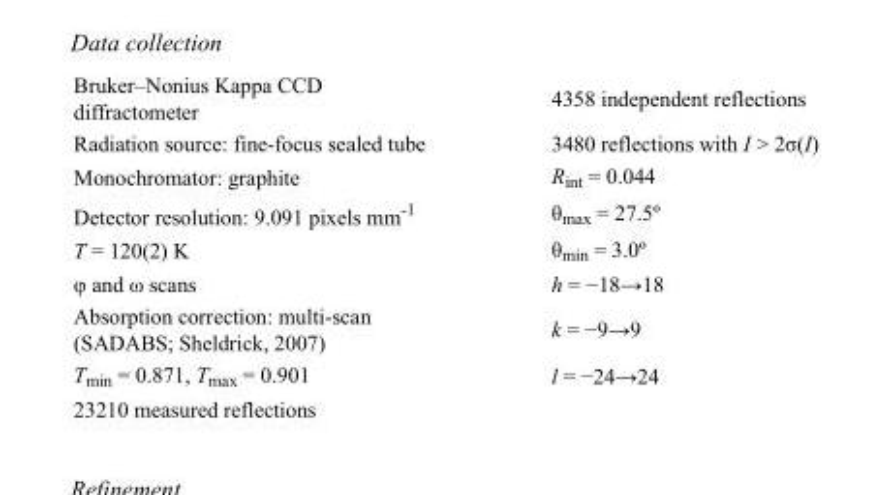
<table><tbody><tr><td>Bruker–Nonius Kappa CCD diffractometer</td><td>4358 independent reflections</td></tr><tr><td>Radiation source: fine-focus sealed tube</td><td>3480 reflections with I &gt; 2σ(I)</td></tr><tr><td>Monochromator: graphite</td><td>R<sub>int</sub> = 0.044</td></tr><tr><td>Detector resolution: 9.091 pixels mm<sup>-1</sup></td><td>θ<sub>max</sub> = 27.5º</td></tr><tr><td>T = 120(2) K</td><td>θ<sub>min</sub> = 3.0º</td></tr><tr><td>φ and ω scans</td><td>h = −18→18</td></tr><tr><td>Absorption correction: multi-scan (SADABS; Sheldrick, 2007)</td><td>k = −9→9</td></tr><tr><td>T<sub>min</sub> = 0.871, T<sub>max</sub> = 0.901</td><td>l = −24→24</td></tr><tr><td>23210 measured reflections</td><td></td></tr></tbody></table>